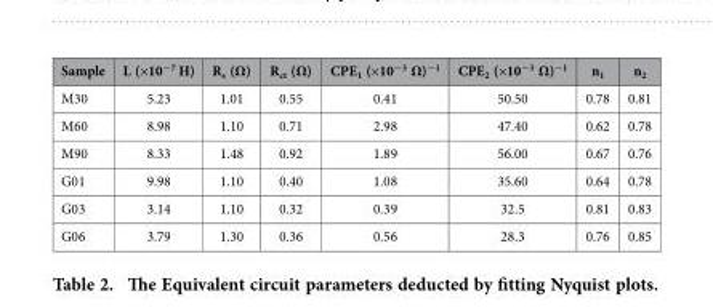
<table><thead><tr><td>Sample</td><td>L (×10<sup>−7</sup> H)</td><td>R<sub>s</sub> (Ω)</td><td>R<sub>ct</sub> (Ω)</td><td>CPE<sub>1</sub> (×10<sup>−3</sup> Ω)<sup>−1</sup></td><td>CPE<sub>2</sub> (×10<sup>−3</sup> Ω)<sup>−1</sup></td><td>n<sub>1</sub></td><td>n<sub>2</sub></td></tr></thead><tbody><tr><td>M30</td><td>5.23</td><td>1.01</td><td>0.55</td><td>0.41</td><td>50.50</td><td>0.78</td><td>0.81</td></tr><tr><td>M60</td><td>8.98</td><td>1.10</td><td>0.71</td><td>2.98</td><td>47.40</td><td>0.62</td><td>0.78</td></tr><tr><td>M90</td><td>8.33</td><td>1.48</td><td>0.92</td><td>1.89</td><td>56.00</td><td>0.67</td><td>0.76</td></tr><tr><td>G01</td><td>9.98</td><td>1.10</td><td>0.40</td><td>1.08</td><td>35.60</td><td>0.64</td><td>0.78</td></tr><tr><td>G03</td><td>3.14</td><td>1.10</td><td>0.32</td><td>0.39</td><td>32.5</td><td>0.81</td><td>0.83</td></tr><tr><td>G06</td><td>3.79</td><td>1.30</td><td>0.36</td><td>0.56</td><td>28.3</td><td>0.76</td><td>0.85</td></tr></tbody></table>